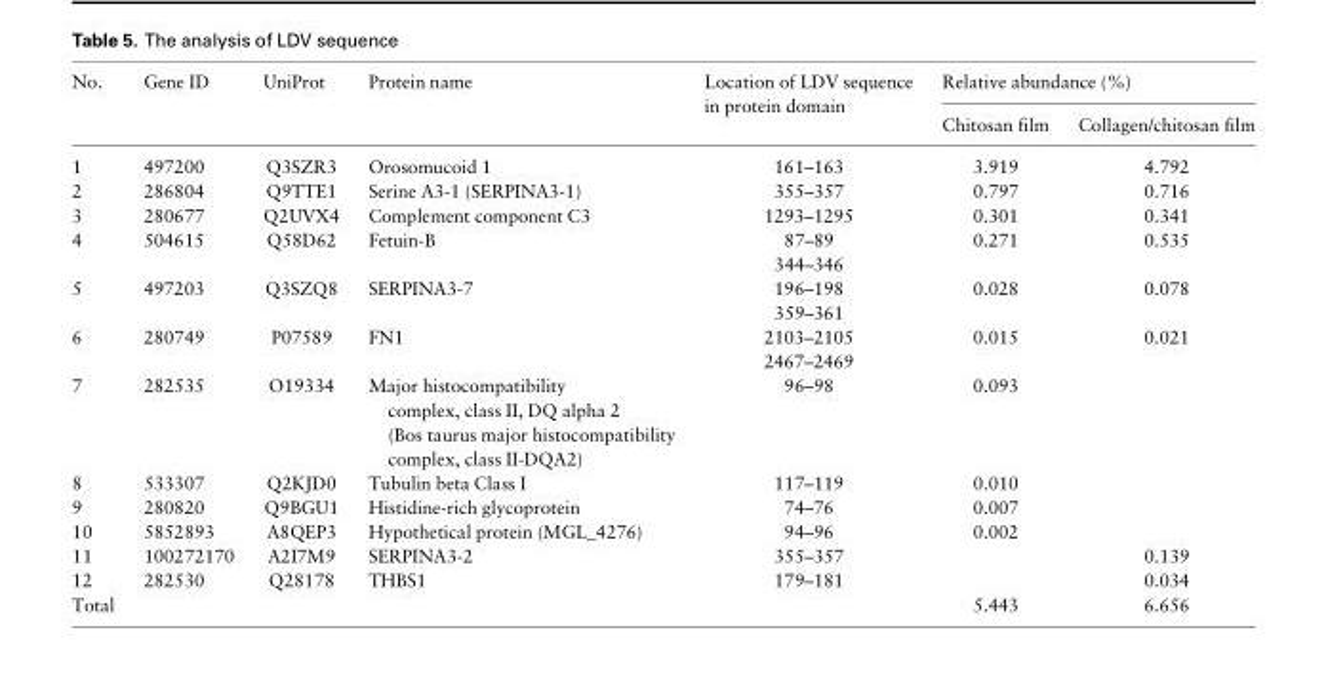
<table><thead><tr><td rowspan="2">No.</td><td rowspan="2">Gene ID</td><td rowspan="2">UniProt</td><td rowspan="2">Protein name</td><td rowspan="2">Location of LDV sequence in protein domain</td><td colspan="2">Relative abundance (%)</td></tr><tr><td>Chitosan film</td><td>Collagen/chitosan film</td></tr></thead><tbody><tr><td>1</td><td>497200</td><td>Q3SZR3</td><td>Orosomucoid 1</td><td>161–163</td><td>3.919</td><td>4.792</td></tr><tr><td>2</td><td>286804</td><td>Q9TTE1</td><td>Serine A3-1 (SERPINA3-1)</td><td>355–357</td><td>0.797</td><td>0.716</td></tr><tr><td>3</td><td>280677</td><td>Q2UVX4</td><td>Complement component C3</td><td>1293–1295</td><td>0.301</td><td>0.341</td></tr><tr><td rowspan="2">4</td><td rowspan="2">504615</td><td rowspan="2">Q58D62</td><td rowspan="2">Fetuin-B</td><td>87–89</td><td rowspan="2">0.271</td><td rowspan="2">0.535</td></tr><tr><td>344–346</td></tr><tr><td rowspan="2">5</td><td rowspan="2">497203</td><td rowspan="2">Q3SZQ8</td><td rowspan="2">SERPINA3-7</td><td>196–198</td><td rowspan="2">0.028</td><td rowspan="2">0.078</td></tr><tr><td>359–361</td></tr><tr><td rowspan="2">6</td><td rowspan="2">280749</td><td rowspan="2">P07589</td><td rowspan="2">FN1</td><td>2103–2105</td><td rowspan="2">0.015</td><td rowspan="2">0.021</td></tr><tr><td>2467–2469</td></tr><tr><td>7</td><td>282535</td><td>O19334</td><td>Major histocompatibility complex, class II, DQ alpha 2 (Bos taurus major histocompatibility complex, class II-DQA2)</td><td>96–98</td><td>0.093</td><td></td></tr><tr><td>8</td><td>533307</td><td>Q2KJD0</td><td>Tubulin beta Class I</td><td>117–119</td><td>0.010</td><td></td></tr><tr><td>9</td><td>280820</td><td>Q9BGU1</td><td>Histidine-rich glycoprotein</td><td>74–76</td><td>0.007</td><td></td></tr><tr><td>10</td><td>5852893</td><td>A8QEP3</td><td>Hypothetical protein (MGL_4276)</td><td>94–96</td><td>0.002</td><td></td></tr><tr><td>11</td><td>100272170</td><td>A2I7M9</td><td>SERPINA3-2</td><td>355–357</td><td></td><td>0.139</td></tr><tr><td>12</td><td>282530</td><td>Q28178</td><td>THBS1</td><td>179–181</td><td></td><td>0.034</td></tr><tr><td>Total</td><td colspan="4"></td><td>5.443</td><td>6.656</td></tr></tbody></table>